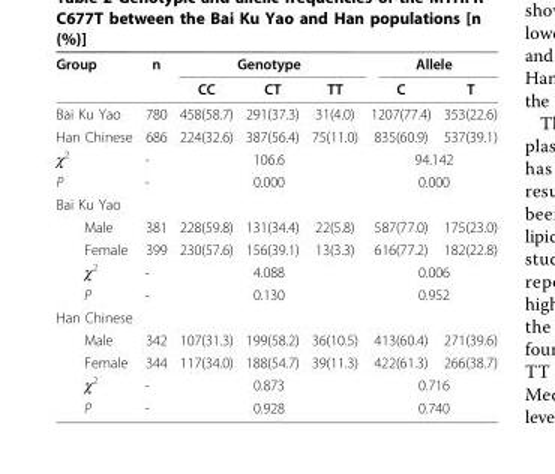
<table><thead><tr><td rowspan="2">Group</td><td rowspan="2">n</td><td colspan="3">Genotype</td><td colspan="2">Allele</td></tr><tr><td>CC</td><td>CT</td><td>TT</td><td>C</td><td>T</td></tr></thead><tbody><tr><td>Bai Ku Yao</td><td>780</td><td>458(58.7)</td><td>291(37.3)</td><td>31(4.0)</td><td>1207(77.4)</td><td>353(22.6)</td></tr><tr><td>Han Chinese</td><td>686</td><td>224(32.6)</td><td>387(56.4)</td><td>75(11.0)</td><td>835(60.9)</td><td>537(39.1)</td></tr><tr><td>χ<sup>2</sup></td><td>-</td><td colspan="3">106.6</td><td colspan="2">94.142</td></tr><tr><td>P</td><td>-</td><td colspan="3">0.000</td><td colspan="2">0.000</td></tr><tr><td colspan="7">Bai Ku Yao</td></tr><tr><td>Male</td><td>381</td><td>228(59.8)</td><td>131(34.4)</td><td>22(5.8)</td><td>587(77.0)</td><td>175(23.0)</td></tr><tr><td>Female</td><td>399</td><td>230(57.6)</td><td>156(39.1)</td><td>13(3.3)</td><td>616(77.2)</td><td>182(22.8)</td></tr><tr><td>χ<sup>2</sup></td><td>-</td><td colspan="3">4.088</td><td colspan="2">0.006</td></tr><tr><td>P</td><td>-</td><td colspan="3">0.130</td><td colspan="2">0.952</td></tr><tr><td colspan="7">Han Chinese</td></tr><tr><td>Male</td><td>342</td><td>107(31.3)</td><td>199(58.2)</td><td>36(10.5)</td><td>413(60.4)</td><td>271(39.6)</td></tr><tr><td>Female</td><td>344</td><td>117(34.0)</td><td>188(54.7)</td><td>39(11.3)</td><td>422(61.3)</td><td>266(38.7)</td></tr><tr><td>χ<sup>2</sup></td><td>-</td><td colspan="3">0.873</td><td colspan="2">0.716</td></tr><tr><td>P</td><td>-</td><td colspan="3">0.928</td><td colspan="2">0.740</td></tr></tbody></table>